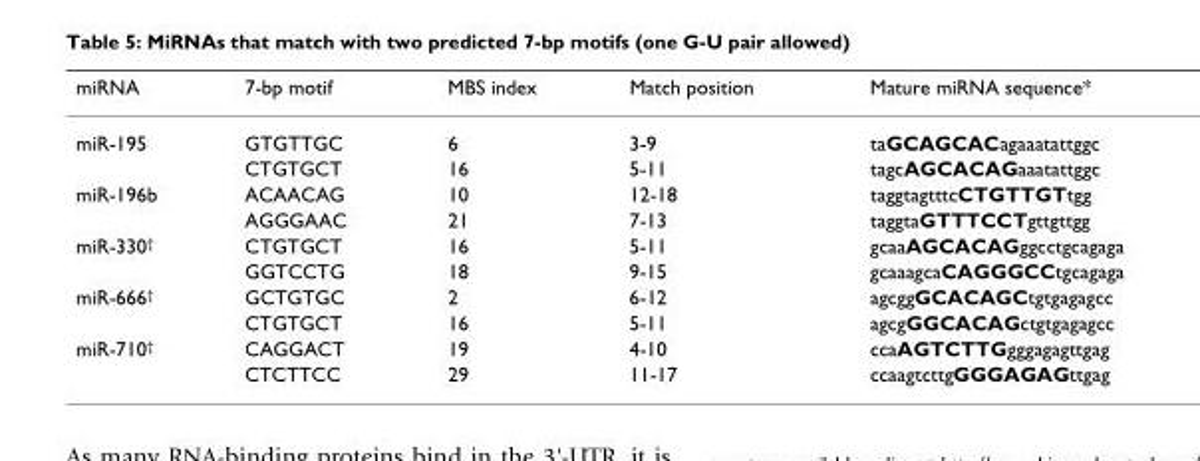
<table><thead><tr><td>miRNA</td><td>7-bp motif</td><td>MBS index</td><td>Match position</td><td>Mature miRNA sequence*</td></tr></thead><tbody><tr><td rowspan="2">miR-195</td><td>GTGTTGC</td><td>6</td><td>3-9</td><td>taGCAGCACagaaatattggc</td></tr><tr><td>CTGTGCT</td><td>16</td><td>5-11</td><td>tagcAGCACAGaaatattggc</td></tr><tr><td rowspan="2">miR-196b</td><td>ACAACAG</td><td>10</td><td>12-18</td><td>taggtagtttcCTGTTGTtgg</td></tr><tr><td>AGGGAAC</td><td>21</td><td>7-13</td><td>taggtaGTTTCCTgttgttgg</td></tr><tr><td rowspan="2">miR-330<sup>†</sup></td><td>CTGTGCT</td><td>16</td><td>5-11</td><td>gcaaAGCACAGggcctgcagaga</td></tr><tr><td>GGTCCTG</td><td>18</td><td>9-15</td><td>gcaaagcaCAGGGCCtgcagaga</td></tr><tr><td rowspan="2">miR-666<sup>†</sup></td><td>GCTGTGC</td><td>2</td><td>6-12</td><td>agcggGCACAGCtgtgagagcc</td></tr><tr><td>CTGTGCT</td><td>16</td><td>5-11</td><td>agcgGGCACAGctgtgagagcc</td></tr><tr><td rowspan="2">miR-710<sup>†</sup></td><td>CAGGACT</td><td>19</td><td>4-10</td><td>ccaAGTCTTGgggagagttgag</td></tr><tr><td>CTCTTCC</td><td>29</td><td>11-17</td><td>ccaagtcttgGGGAGAGttgag</td></tr></tbody></table>